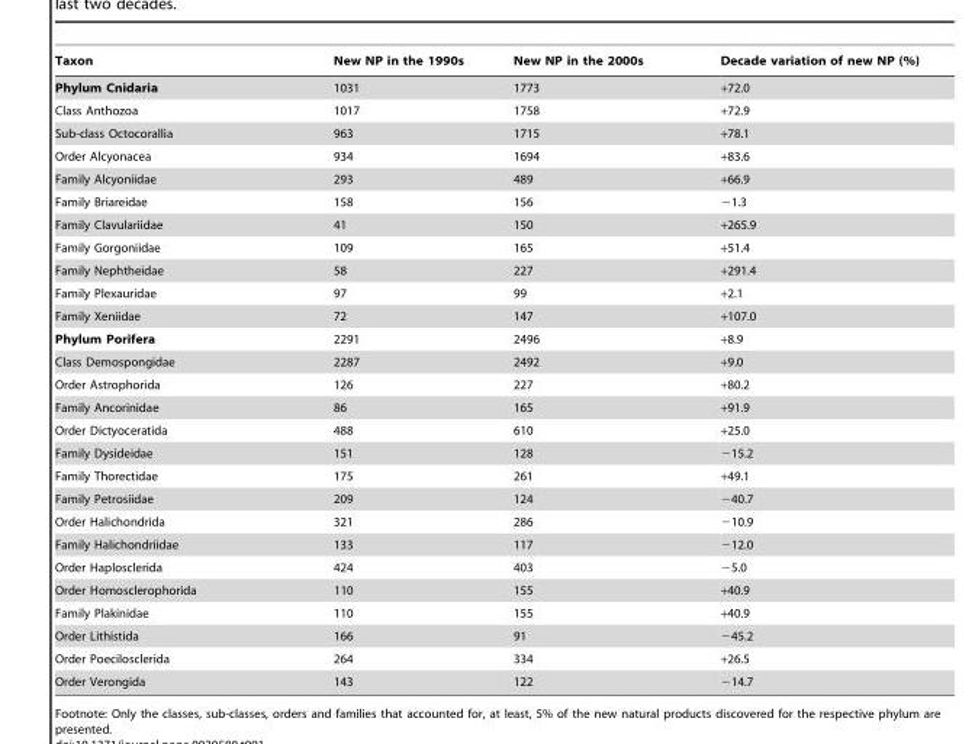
<table><thead><tr><td>Taxon</td><td>New NP in the 1990s</td><td>New NP in the 2000s</td><td>Decade variation of new NP (%)</td></tr></thead><tbody><tr><td>Phylum Cnidaria</td><td>1031</td><td>1773</td><td>+72.0</td></tr><tr><td>Class Anthozoa</td><td>1017</td><td>1758</td><td>+72.9</td></tr><tr><td>Sub-class Octocorallia</td><td>963</td><td>1715</td><td>+78.1</td></tr><tr><td>Order Alcyonacea</td><td>934</td><td>1694</td><td>+83.6</td></tr><tr><td>Family Alcyoniidae</td><td>293</td><td>489</td><td>+66.9</td></tr><tr><td>Family Briareidae</td><td>158</td><td>156</td><td>−1.3</td></tr><tr><td>Family Clavulariidae</td><td>41</td><td>150</td><td>+265.9</td></tr><tr><td>Family Gorgoniidae</td><td>109</td><td>165</td><td>+51.4</td></tr><tr><td>Family Nephtheidae</td><td>58</td><td>227</td><td>+291.4</td></tr><tr><td>Family Plexauridae</td><td>97</td><td>99</td><td>+2.1</td></tr><tr><td>Family Xeniidae</td><td>72</td><td>147</td><td>+107.0</td></tr><tr><td>Phylum Porifera</td><td>2291</td><td>2496</td><td>+8.9</td></tr><tr><td>Class Demospongidae</td><td>2287</td><td>2492</td><td>+9.0</td></tr><tr><td>Order Astrophorida</td><td>126</td><td>227</td><td>+80.2</td></tr><tr><td>Family Ancorinidae</td><td>86</td><td>165</td><td>+91.9</td></tr><tr><td>Order Dictyoceratida</td><td>488</td><td>610</td><td>+25.0</td></tr><tr><td>Family Dysideidae</td><td>151</td><td>128</td><td>−15.2</td></tr><tr><td>Family Thorectidae</td><td>175</td><td>261</td><td>+49.1</td></tr><tr><td>Family Petrosiidae</td><td>209</td><td>124</td><td>−40.7</td></tr><tr><td>Order Halichondrida</td><td>321</td><td>286</td><td>−10.9</td></tr><tr><td>Family Halichondriidae</td><td>133</td><td>117</td><td>−12.0</td></tr><tr><td>Order Haplosclerida</td><td>424</td><td>403</td><td>−5.0</td></tr><tr><td>Order Homosclerophorida</td><td>110</td><td>155</td><td>+40.9</td></tr><tr><td>Family Plakinidae</td><td>110</td><td>155</td><td>+40.9</td></tr><tr><td>Order Lithistida</td><td>166</td><td>91</td><td>−45.2</td></tr><tr><td>Order Poecilosclerida</td><td>264</td><td>334</td><td>+26.5</td></tr><tr><td>Order Verongida</td><td>143</td><td>122</td><td>−14.7</td></tr></tbody></table>